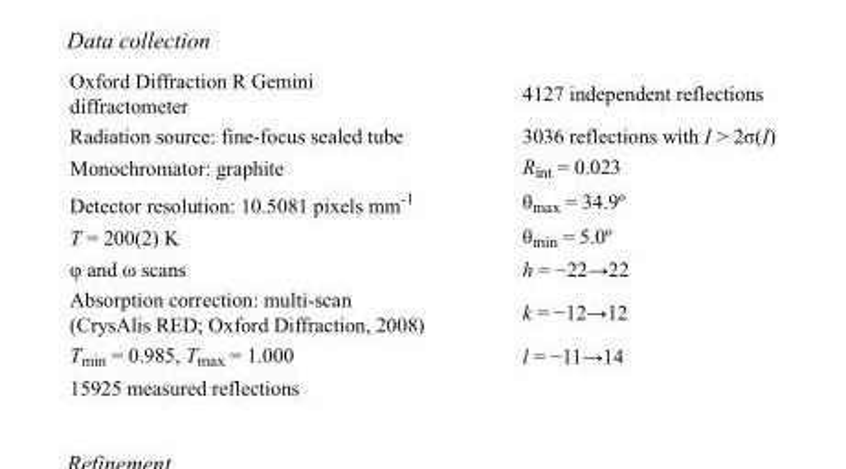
<table><tbody><tr><td>Oxford Diffraction R Gemini diffractometer</td><td>4127 independent reflections</td></tr><tr><td>Radiation source: fine-focus sealed tube</td><td>3036 reflections with I &gt; 2σ(I)</td></tr><tr><td>Monochromator: graphite</td><td>R<sub>int</sub> = 0.023</td></tr><tr><td>Detector resolution: 10.5081 pixels mm<sup>-1</sup></td><td>θ<sub>max</sub> = 34.9º</td></tr><tr><td>T = 200(2) K</td><td>θ<sub>min</sub> = 5.0º</td></tr><tr><td>φ and ω scans</td><td>h = −22→22</td></tr><tr><td>Absorption correction: multi-scan (CrysAlis RED; Oxford Diffraction, 2008)</td><td>k = −12→12</td></tr><tr><td>T<sub>min</sub> = 0.985, T<sub>max</sub> = 1.000</td><td>l = −11→14</td></tr><tr><td>15925 measured reflections</td><td></td></tr></tbody></table>